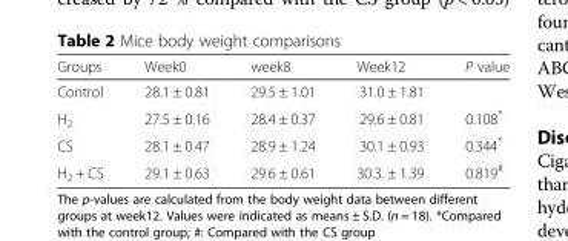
<table><thead><tr><td>Groups</td><td>Week0</td><td>week8</td><td>Week12</td><td>P value</td></tr></thead><tbody><tr><td>Control</td><td>28.1 ± 0.81</td><td>29.5 ± 1.01</td><td>31.0 ± 1.81</td><td></td></tr><tr><td>H<sub>2</sub></td><td>27.5 ± 0.16</td><td>28.4 ± 0.37</td><td>29.6 ± 0.81</td><td>0.108*</td></tr><tr><td>CS</td><td>28.1 ± 0.47</td><td>28.9 ± 1.24</td><td>30.1 ± 0.93</td><td>0.344*</td></tr><tr><td>H<sub>2</sub> + CS</td><td>29.1 ± 0.63</td><td>29.6 ± 0.61</td><td>30.3. ± 1.39</td><td>0.819<sup>#</sup></td></tr></tbody></table>